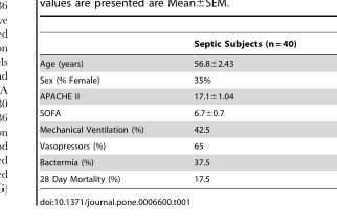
<table><thead><tr><td></td><td>Septic Subjects (n = 40)</td></tr></thead><tbody><tr><td>Age (years)</td><td>56.8±2.43</td></tr><tr><td>Sex (% Female)</td><td>35%</td></tr><tr><td>APACHE II</td><td>17.1±1.04</td></tr><tr><td>SOFA</td><td>6.7±0.7</td></tr><tr><td>Mechanical Ventilation (%)</td><td>42.5</td></tr><tr><td>Vasopressors (%)</td><td>65</td></tr><tr><td>Bactermia (%)</td><td>37.5</td></tr><tr><td>28 Day Mortality (%)</td><td>17.5</td></tr></tbody></table>